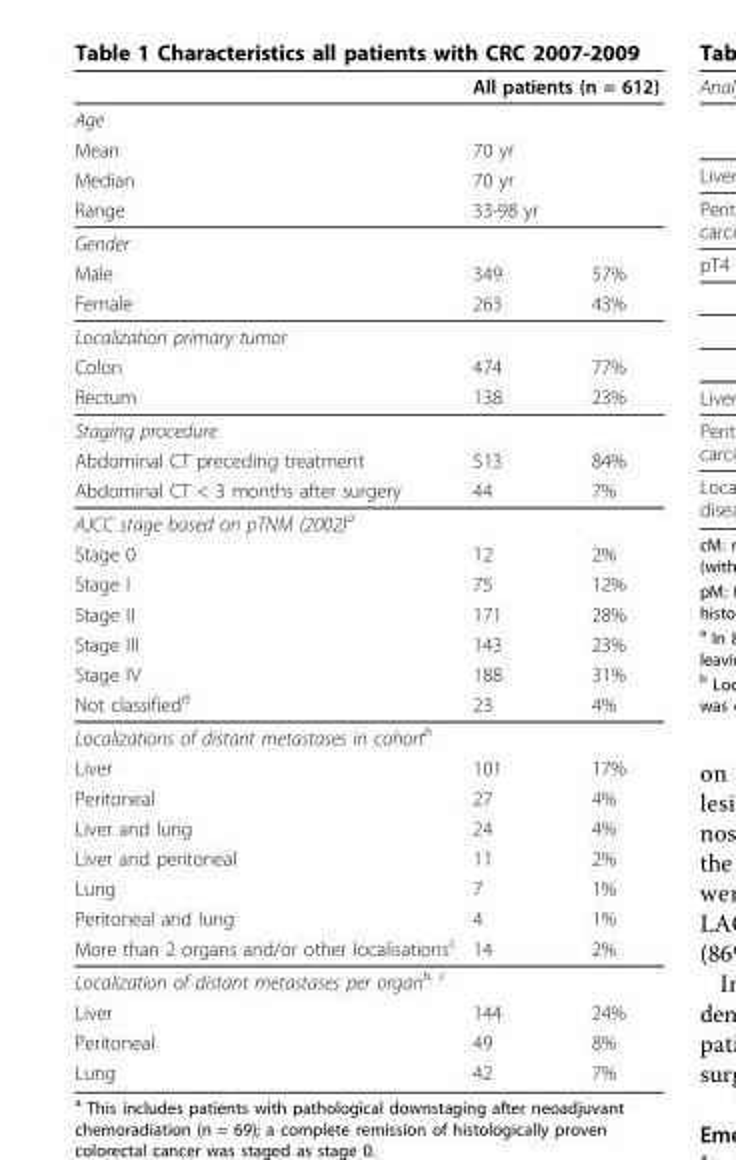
<table><thead><tr><td rowspan="2">Age</td><td colspan="2">All patients (n = 612)</td></tr><tr><td></td><td></td></tr></thead><tbody><tr><td>Mean</td><td>70 yr</td><td></td></tr><tr><td>Median</td><td>70 yr</td><td></td></tr><tr><td>Range</td><td>33-98 yr</td><td></td></tr><tr><td colspan="3">Gender</td></tr><tr><td>Male</td><td>349</td><td>57%</td></tr><tr><td>Female</td><td>263</td><td>43%</td></tr><tr><td colspan="3">Localization primary tumor</td></tr><tr><td>Colon</td><td>474</td><td>77%</td></tr><tr><td>Rectum</td><td>138</td><td>23%</td></tr><tr><td colspan="3">Staging procedure</td></tr><tr><td>Abdominal CT preceding treatment</td><td>513</td><td>84%</td></tr><tr><td>Abdominal CT &lt; 3 months after surgery</td><td>44</td><td>7%</td></tr><tr><td colspan="3">AJCC stage based on pTNM (2002)<sup>a</sup></td></tr><tr><td>Stage 0</td><td>12</td><td>2%</td></tr><tr><td>Stage I</td><td>75</td><td>12%</td></tr><tr><td>Stage II</td><td>171</td><td>28%</td></tr><tr><td>Stage III</td><td>143</td><td>23%</td></tr><tr><td>Stage IV</td><td>188</td><td>31%</td></tr><tr><td>Not classified<sup>d</sup></td><td>23</td><td>4%</td></tr><tr><td colspan="3">Localizations of distant metastases in cohort<sup>b</sup></td></tr><tr><td>Liver</td><td>101</td><td>17%</td></tr><tr><td>Peritoneal</td><td>27</td><td>4%</td></tr><tr><td>Liver and lung</td><td>24</td><td>4%</td></tr><tr><td>Liver and peritoneal</td><td>11</td><td>2%</td></tr><tr><td>Lung</td><td>7</td><td>1%</td></tr><tr><td>Peritoneal and lung</td><td>4</td><td>1%</td></tr><tr><td>More than 2 organs and/or other localisations<sup>c</sup></td><td>14</td><td>2%</td></tr><tr><td colspan="3">Localization of distant metastases per organ<sup>b, c</sup></td></tr><tr><td>Liver</td><td>144</td><td>24%</td></tr><tr><td>Peritoneal</td><td>49</td><td>8%</td></tr><tr><td>Lung</td><td>42</td><td>7%</td></tr></tbody></table>